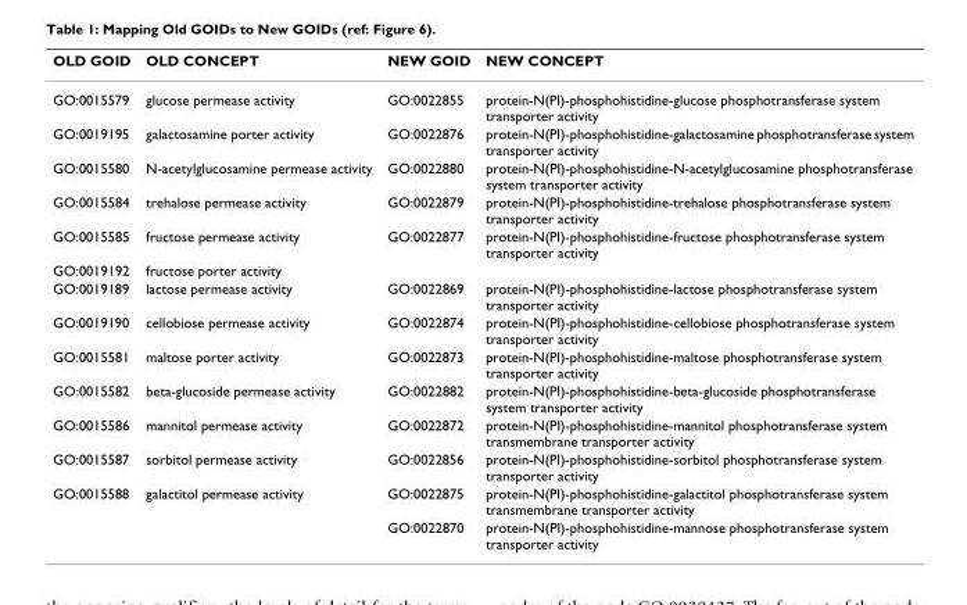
<table><thead><tr><td>OLD GOID</td><td>OLD CONCEPT</td><td>NEW GOID</td><td>NEW CONCEPT</td></tr></thead><tbody><tr><td>GO:0015579</td><td>glucose permease activity</td><td>GO:0022855</td><td>protein-N(PI)-phosphohistidine-glucose phosphotransferase system transporter activity</td></tr><tr><td>GO:0019195</td><td>galactosamine porter activity</td><td>GO:0022876</td><td>protein-N(PI)-phosphohistidine-galactosamine phosphotransferase system transporter activity</td></tr><tr><td>GO:0015580</td><td>N-acetylglucosamine permease activity</td><td>GO:0022880</td><td>protein-N(PI)-phosphohistidine-N-acetylglucosamine phosphotransferase system transporter activity</td></tr><tr><td>GO:0015584</td><td>trehalose permease activity</td><td>GO:0022879</td><td>protein-N(PI)-phosphohistidine-trehalose phosphotransferase system transporter activity</td></tr><tr><td>GO:0015585</td><td>fructose permease activity</td><td>GO:0022877</td><td>protein-N(PI)-phosphohistidine-fructose phosphotransferase system transporter activity</td></tr><tr><td>GO:0019192</td><td>fructose porter activity</td><td></td><td></td></tr><tr><td>GO:0019189</td><td>lactose permease activity</td><td>GO:0022869</td><td>protein-N(PI)-phosphohistidine-lactose phosphotransferase system transporter activity</td></tr><tr><td>GO:0019190</td><td>cellobiose permease activity</td><td>GO:0022874</td><td>protein-N(PI)-phosphohistidine-cellobiose phosphotransferase system transporter activity</td></tr><tr><td>GO:0015581</td><td>maltose porter activity</td><td>GO:0022873</td><td>protein-N(PI)-phosphohistidine-maltose phosphotransferase system transporter activity</td></tr><tr><td>GO:0015582</td><td>beta-glucoside permease activity</td><td>GO:0022882</td><td>protein-N(PI)-phosphohistidine-beta-glucoside phosphotransferase system transporter activity</td></tr><tr><td>GO:0015586</td><td>mannitol permease activity</td><td>GO:0022872</td><td>protein-N(PI)-phosphohistidine-mannitol phosphotransferase system transmembrane transporter activity</td></tr><tr><td>GO:0015587</td><td>sorbitol permease activity</td><td>GO:0022856</td><td>protein-N(PI)-phosphohistidine-sorbitol phosphotransferase system transporter activity</td></tr><tr><td rowspan="2">GO:0015588</td><td>galactitol permease activity</td><td>GO:0022875</td><td>protein-N(PI)-phosphohistidine-galactitol phosphotransferase system transmembrane transporter activity</td></tr><tr><td></td><td>GO:0022870</td><td>protein-N(PI)-phosphohistidine-mannose phosphotransferase system transporter activity</td></tr></tbody></table>